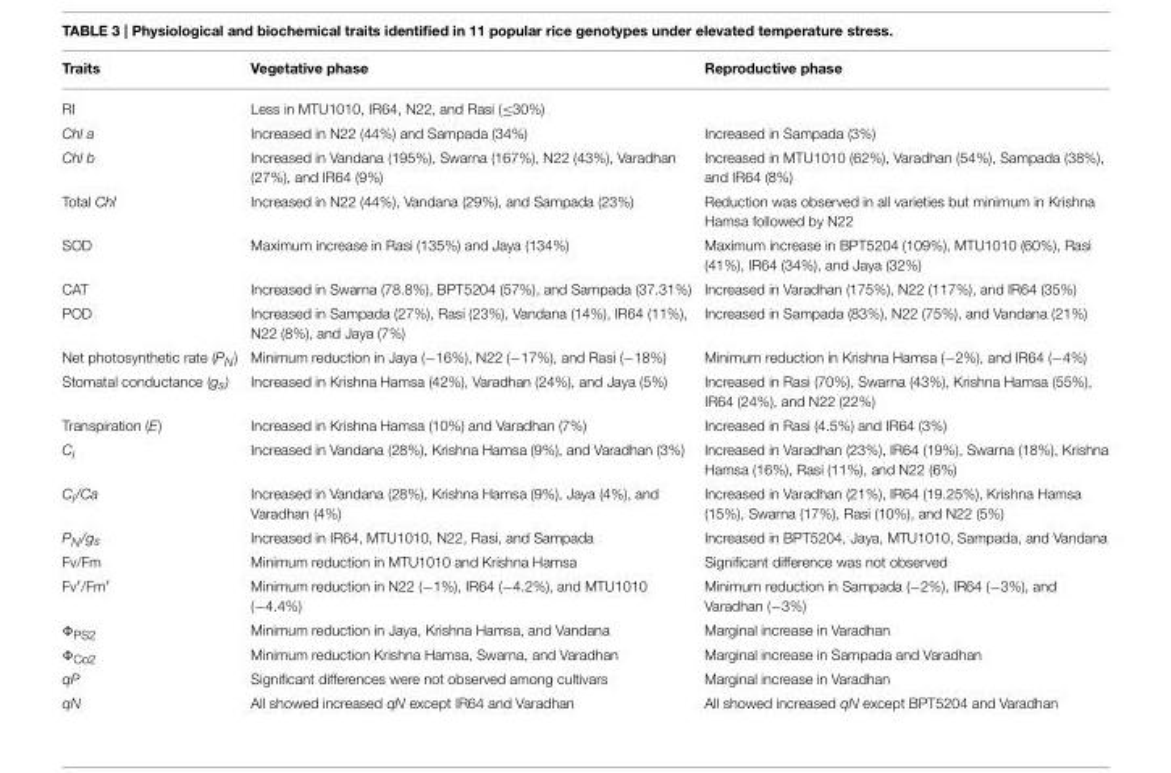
<table><thead><tr><td>Traits</td><td>Vegetative phase</td><td>Reproductive phase</td></tr></thead><tbody><tr><td>RI</td><td colspan="2">Less in MTU1010, IR64, N22, and Rasi (≤30%)</td></tr><tr><td>Chl a</td><td>Increased in N22 (44%) and Sampada (34%)</td><td>Increased in Sampada (3%)</td></tr><tr><td>Chl b</td><td>Increased in Vandana (195%), Swarna (167%), N22 (43%), Varadhan (27%), and IR64 (9%)</td><td>Increased in MTU1010 (62%), Varadhan (54%), Sampada (38%), and IR64 (8%)</td></tr><tr><td>Total Chl</td><td>Increased in N22 (44%), Vandana (29%), and Sampada (23%)</td><td>Reduction was observed in all varieties but minimum in Krishna Hamsa followed by N22</td></tr><tr><td>SOD</td><td>Maximum increase in Rasi (135%) and Jaya (134%)</td><td>Maximum increase in BPT5204 (109%), MTU1010 (60%), Rasi (41%), IR64 (34%), and Jaya (32%)</td></tr><tr><td>CAT</td><td>Increased in Swarna (78.8%), BPT5204 (57%), and Sampada (37.31%)</td><td>Increased in Varadhan (175%), N22 (117%), and IR64 (35%)</td></tr><tr><td>POD</td><td>Increased in Sampada (27%), Rasi (23%), Vandana (14%), IR64 (11%), N22 (8%), and Jaya (7%)</td><td>Increased in Sampada (83%), N22 (75%), and Vandana (21%)</td></tr><tr><td>Net photosynthetic rate (PN)</td><td>Minimum reduction in Jaya (−16%), N22 (−17%), and Rasi (−18%)</td><td>Minimum reduction in Krishna Hamsa (−2%), and IR64 (−4%)</td></tr><tr><td>Stomatal conductance (gs)</td><td>Increased in Krishna Hamsa (42%), Varadhan (24%), and Jaya (5%)</td><td>Increased in Rasi (70%), Swarna (43%), Krishna Hamsa (55%), IR64 (24%), and N22 (22%)</td></tr><tr><td>Transpiration (E)</td><td>Increased in Krishna Hamsa (10%) and Varadhan (7%)</td><td>Increased in Rasi (4.5%) and IR64 (3%)</td></tr><tr><td>Ci</td><td>Increased in Vandana (28%), Krishna Hamsa (9%), and Varadhan (3%)</td><td>Increased in Varadhan (23%), IR64 (19%), Swarna (18%), Krishna Hamsa (16%), Rasi (11%), and N22 (6%)</td></tr><tr><td>Ci/Ca</td><td>Increased in Vandana (28%), Krishna Hamsa (9%), Jaya (4%), and Varadhan (4%)</td><td>Increased in Varadhan (21%), IR64 (19.25%), Krishna Hamsa (15%), Swarna (17%), Rasi (10%), and N22 (5%)</td></tr><tr><td>PN/gs</td><td>Increased in IR64, MTU1010, N22, Rasi, and Sampada</td><td>Increased in BPT5204, Jaya, MTU1010, Sampada, and Vandana</td></tr><tr><td>Fv/Fm</td><td>Minimum reduction in MTU1010 and Krishna Hamsa</td><td>Significant difference was not observed</td></tr><tr><td>Fv′/Fm′</td><td>Minimum reduction in N22 (−1%), IR64 (−4.2%), and MTU1010 (−4.4%)</td><td>Minimum reduction in Sampada (−2%), IR64 (−3%), and Varadhan (−3%)</td></tr><tr><td>Φ<sub>PS2</sub></td><td>Minimum reduction in Jaya, Krishna Hamsa, and Vandana</td><td>Marginal increase in Varadhan</td></tr><tr><td>Φ<sub>Co2</sub></td><td>Minimum reduction Krishna Hamsa, Swarna, and Varadhan</td><td>Marginal increase in Sampada and Varadhan</td></tr><tr><td>qP</td><td>Significant differences were not observed among cultivars</td><td>Marginal increase in Varadhan</td></tr><tr><td>qN</td><td>All showed increased qN except IR64 and Varadhan</td><td>All showed increased qN except BPT5204 and Varadhan</td></tr></tbody></table>